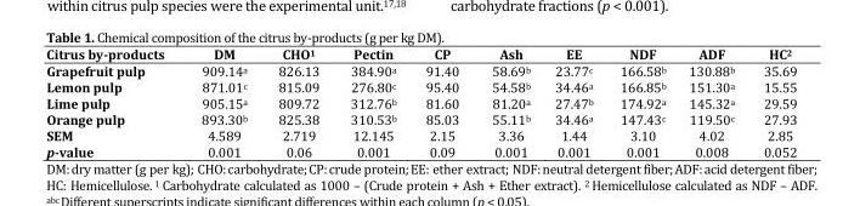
<table><thead><tr><td>Citrus by-products</td><td>DM</td><td>CHO1</td><td>Pectin</td><td>CP</td><td>Ash</td><td>EE</td><td>NDF</td><td>ADF</td><td>HC2</td></tr></thead><tbody><tr><td>Grapefruit pulp</td><td>909.14<sup>a</sup></td><td>826.13</td><td>384.90<sup>a</sup></td><td>91.40</td><td>58.69<sup>b</sup></td><td>23.77<sup>c</sup></td><td>166.58<sup>b</sup></td><td>130.88<sup>b</sup></td><td>35.69</td></tr><tr><td>Lemon pulp</td><td>871.01<sup>c</sup></td><td>815.09</td><td>276.80<sup>c</sup></td><td>95.40</td><td>54.58<sup>b</sup></td><td>34.46<sup>a</sup></td><td>166.85<sup>b</sup></td><td>151.30<sup>a</sup></td><td>15.55</td></tr><tr><td>Lime pulp</td><td>905.15<sup>a</sup></td><td>809.72</td><td>312.76<sup>b</sup></td><td>81.60</td><td>81.20<sup>a</sup></td><td>27.47<sup>b</sup></td><td>174.92<sup>a</sup></td><td>145.32<sup>a</sup></td><td>29.59</td></tr><tr><td>Orange pulp</td><td>893.30<sup>b</sup></td><td>825.38</td><td>310.53<sup>b</sup></td><td>85.03</td><td>55.11<sup>b</sup></td><td>34.46<sup>a</sup></td><td>147.43<sup>c</sup></td><td>119.50<sup>c</sup></td><td>27.93</td></tr><tr><td>SEM</td><td>4.589</td><td>2.719</td><td>12.145</td><td>2.15</td><td>3.36</td><td>1.44</td><td>3.10</td><td>4.02</td><td>2.85</td></tr><tr><td>p-value</td><td>0.001</td><td>0.06</td><td>0.001</td><td>0.09</td><td>0.001</td><td>0.001</td><td>0.001</td><td>0.008</td><td>0.052</td></tr></tbody></table>